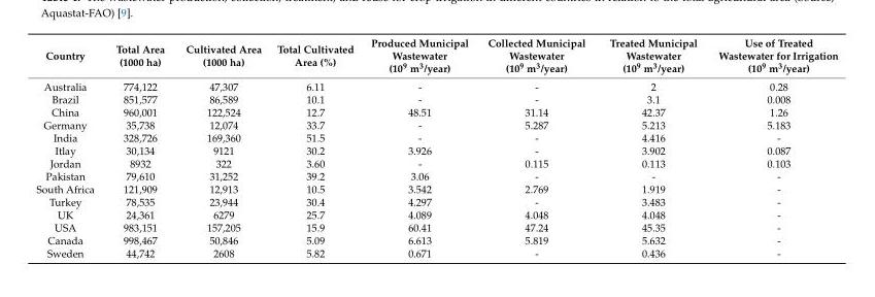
<table><thead><tr><td>Country</td><td>Total Area (1000 ha)</td><td>Cultivated Area (1000 ha)</td><td>Total Cultivated Area (%)</td><td>Produced Municipal Wastewater (10<sup>9</sup> m<sup>3</sup>/year)</td><td>Collected Municipal Wastewater (10<sup>9</sup> m<sup>3</sup>/year)</td><td>Treated Municipal Wastewater (10<sup>9</sup> m<sup>3</sup>/year)</td><td>Use of Treated Wastewater for Irrigation (10<sup>9</sup> m<sup>3</sup>/year)</td></tr></thead><tbody><tr><td>Australia</td><td>774,122</td><td>47,307</td><td>6.11</td><td>-</td><td>-</td><td>2</td><td>0.28</td></tr><tr><td>Brazil</td><td>851,577</td><td>86,589</td><td>10.1</td><td>-</td><td>-</td><td>3.1</td><td>0.008</td></tr><tr><td>China</td><td>960,001</td><td>122,524</td><td>12.7</td><td>48.51</td><td>31.14</td><td>42.37</td><td>1.26</td></tr><tr><td>Germany</td><td>35,738</td><td>12,074</td><td>33.7</td><td>-</td><td>5.287</td><td>5.213</td><td>5.183</td></tr><tr><td>India</td><td>328,726</td><td>169,360</td><td>51.5</td><td>-</td><td>-</td><td>4.416</td><td>-</td></tr><tr><td>Itlay</td><td>30,134</td><td>9121</td><td>30.2</td><td>3.926</td><td>-</td><td>3.902</td><td>0.087</td></tr><tr><td>Jordan</td><td>8932</td><td>322</td><td>3.60</td><td>-</td><td>0.115</td><td>0.113</td><td>0.103</td></tr><tr><td>Pakistan</td><td>79,610</td><td>31,252</td><td>39.2</td><td>3.06</td><td>-</td><td>-</td><td>-</td></tr><tr><td>South Africa</td><td>121,909</td><td>12,913</td><td>10.5</td><td>3.542</td><td>2.769</td><td>1.919</td><td>-</td></tr><tr><td>Turkey</td><td>78,535</td><td>23,944</td><td>30.4</td><td>4.297</td><td>-</td><td>3.483</td><td>-</td></tr><tr><td>UK</td><td>24,361</td><td>6279</td><td>25.7</td><td>4.089</td><td>4.048</td><td>4.048</td><td>-</td></tr><tr><td>USA</td><td>983,151</td><td>157,205</td><td>15.9</td><td>60.41</td><td>47.24</td><td>45.35</td><td>-</td></tr><tr><td>Canada</td><td>998,467</td><td>50,846</td><td>5.09</td><td>6.613</td><td>5.819</td><td>5.632</td><td>-</td></tr><tr><td>Sweden</td><td>44,742</td><td>2608</td><td>5.82</td><td>0.671</td><td>-</td><td>0.436</td><td>-</td></tr></tbody></table>